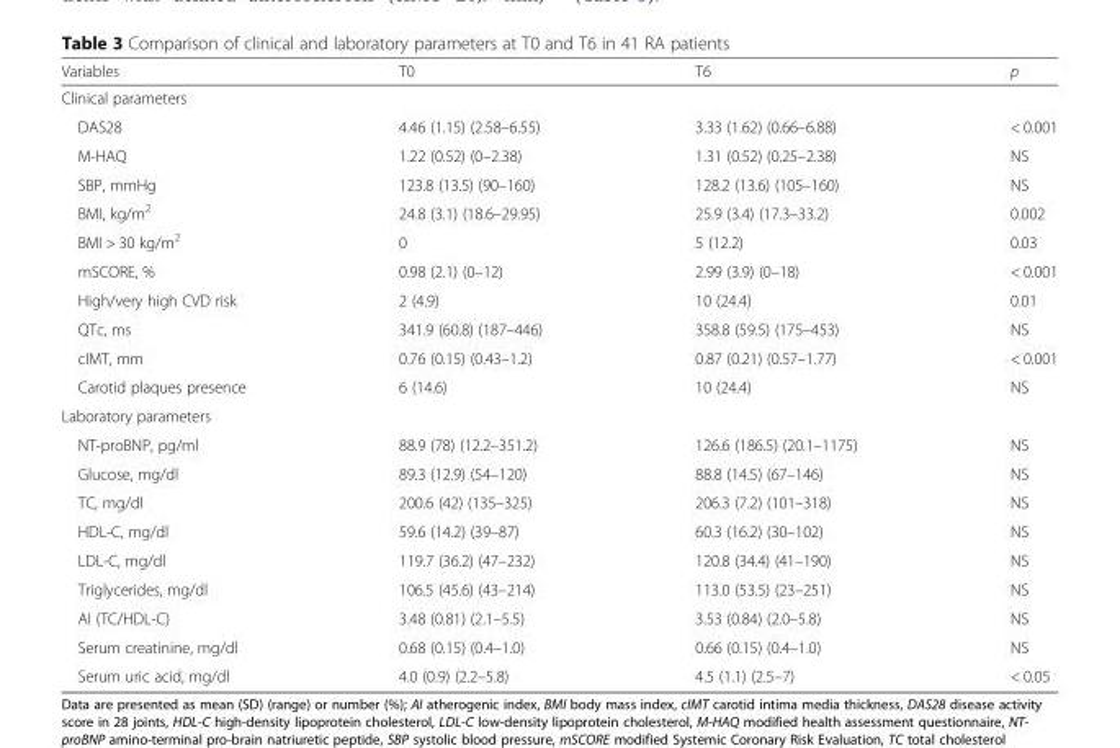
<table><thead><tr><td>Variables</td><td>T0</td><td>T6</td><td>p</td></tr></thead><tbody><tr><td colspan="4">Clinical parameters</td></tr><tr><td>DAS28</td><td>4.46 (1.15) (2.58–6.55)</td><td>3.33 (1.62) (0.66–6.88)</td><td>&lt; 0.001</td></tr><tr><td>M-HAQ</td><td>1.22 (0.52) (0–2.38)</td><td>1.31 (0.52) (0.25–2.38)</td><td>NS</td></tr><tr><td>SBP, mmHg</td><td>123.8 (13.5) (90–160)</td><td>128.2 (13.6) (105–160)</td><td>NS</td></tr><tr><td>BMI, kg/m<sup>2</sup></td><td>24.8 (3.1) (18.6–29.95)</td><td>25.9 (3.4) (17.3–33.2)</td><td>0.002</td></tr><tr><td>BMI &gt; 30 kg/m<sup>2</sup></td><td>0</td><td>5 (12.2)</td><td>0.03</td></tr><tr><td>mSCORE, %</td><td>0.98 (2.1) (0–12)</td><td>2.99 (3.9) (0–18)</td><td>&lt; 0.001</td></tr><tr><td>High/very high CVD risk</td><td>2 (4.9)</td><td>10 (24.4)</td><td>0.01</td></tr><tr><td>QTc, ms</td><td>341.9 (60.8) (187–446)</td><td>358.8 (59.5) (175–453)</td><td>NS</td></tr><tr><td>cIMT, mm</td><td>0.76 (0.15) (0.43–1.2)</td><td>0.87 (0.21) (0.57–1.77)</td><td>&lt; 0.001</td></tr><tr><td>Carotid plaques presence</td><td>6 (14.6)</td><td>10 (24.4)</td><td>NS</td></tr><tr><td colspan="4">Laboratory parameters</td></tr><tr><td>NT-proBNP, pg/ml</td><td>88.9 (78) (12.2–351.2)</td><td>126.6 (186.5) (20.1–1175)</td><td>NS</td></tr><tr><td>Glucose, mg/dl</td><td>89.3 (12.9) (54–120)</td><td>88.8 (14.5) (67–146)</td><td>NS</td></tr><tr><td>TC, mg/dl</td><td>200.6 (42) (135–325)</td><td>206.3 (7.2) (101–318)</td><td>NS</td></tr><tr><td>HDL-C, mg/dl</td><td>59.6 (14.2) (39–87)</td><td>60.3 (16.2) (30–102)</td><td>NS</td></tr><tr><td>LDL-C, mg/dl</td><td>119.7 (36.2) (47–232)</td><td>120.8 (34.4) (41–190)</td><td>NS</td></tr><tr><td>Triglycerides, mg/dl</td><td>106.5 (45.6) (43–214)</td><td>113.0 (53.5) (23–251)</td><td>NS</td></tr><tr><td>AI (TC/HDL-C)</td><td>3.48 (0.81) (2.1–5.5)</td><td>3.53 (0.84) (2.0–5.8)</td><td>NS</td></tr><tr><td>Serum creatinine, mg/dl</td><td>0.68 (0.15) (0.4–1.0)</td><td>0.66 (0.15) (0.4–1.0)</td><td>NS</td></tr><tr><td>Serum uric acid, mg/dl</td><td>4.0 (0.9) (2.2–5.8)</td><td>4.5 (1.1) (2.5–7)</td><td>&lt; 0.05</td></tr></tbody></table>